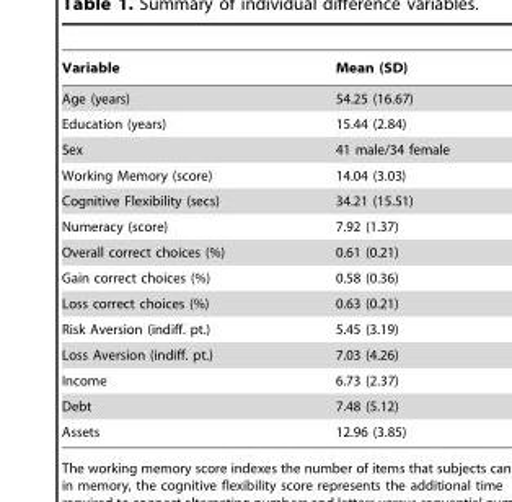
<table><thead><tr><td>Variable</td><td>Mean (SD)</td></tr></thead><tbody><tr><td>Age (years)</td><td>54.25 (16.67)</td></tr><tr><td>Education (years)</td><td>15.44 (2.84)</td></tr><tr><td>Sex</td><td>41 male/34 female</td></tr><tr><td>Working Memory (score)</td><td>14.04 (3.03)</td></tr><tr><td>Cognitive Flexibility (secs)</td><td>34.21 (15.51)</td></tr><tr><td>Numeracy (score)</td><td>7.92 (1.37)</td></tr><tr><td>Overall correct choices (%)</td><td>0.61 (0.21)</td></tr><tr><td>Gain correct choices (%)</td><td>0.58 (0.36)</td></tr><tr><td>Loss correct choices (%)</td><td>0.63 (0.21)</td></tr><tr><td>Risk Aversion (indiff. pt.)</td><td>5.45 (3.19)</td></tr><tr><td>Loss Aversion (indiff. pt.)</td><td>7.03 (4.26)</td></tr><tr><td>Income</td><td>6.73 (2.37)</td></tr><tr><td>Debt</td><td>7.48 (5.12)</td></tr><tr><td>Assets</td><td>12.96 (3.85)</td></tr></tbody></table>